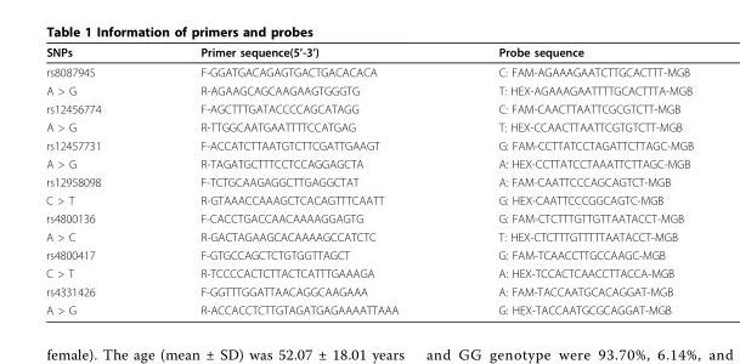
<table><thead><tr><td>SNPs</td><td>Primer sequence(5’-3’)</td><td>Probe sequence</td></tr></thead><tbody><tr><td>rs8087945</td><td>F-GGATGACAGAGTGACTGACACACA</td><td>C: FAM-AGAAAGAATCTTGCACTTT-MGB</td></tr><tr><td>A &gt; G</td><td>R-AGAAGCAGCAAGAAGTGGGTG</td><td>T: HEX-AGAAAGAATTTTGCACTTTA-MGB</td></tr><tr><td>rs12456774</td><td>F-AGCTTTGATACCCCAGCATAGG</td><td>C: FAM-CAACTTAATTCGCGTCTT-MGB</td></tr><tr><td>A &gt; G</td><td>R-TTGGCAATGAATTTTCCATGAG</td><td>T: HEX-CCAACTTAATTCGTGTCTT-MGB</td></tr><tr><td>rs12457731</td><td>F-ACCATCTTAATGTCTTCGATTGAAGT</td><td>G: FAM-CCTTATCCTAGATTCTTAGC-MGB</td></tr><tr><td>A &gt; G</td><td>R-TAGATGCTTTCCTCCAGGAGCTA</td><td>A: HEX-CCTTATCCTAAATTCTTAGC-MGB</td></tr><tr><td>rs12958098</td><td>F-TCTGCAAGAGGCTTGAGGCTAT</td><td>A: FAM-CAATTCCCAGCAGTCT-MGB</td></tr><tr><td>C &gt; T</td><td>R-GTAAACCAAAGCTCACAGTTTCAATT</td><td>G: HEX-CAATTCCCGGCAGTC-MGB</td></tr><tr><td>rs4800136</td><td>F-CACCTGACCAACAAAAGGAGTG</td><td>G: FAM-CTCTTTGTTGTTAATACCT-MGB</td></tr><tr><td>A &gt; C</td><td>R-GACTAGAAGCACAAAAGCCATCTC</td><td>T: HEX-CTCTTTGTTTTTAATACCT-MGB</td></tr><tr><td>rs4800417</td><td>F-GTGCCAGCTCTGTGGTTAGCT</td><td>G: FAM-TCAACCTTGCCAAGC-MGB</td></tr><tr><td>C &gt; T</td><td>R-TCCCCACTCTTACTCATTTGAAAGA</td><td>A: HEX-TCCACTCAACCTTACCA-MGB</td></tr><tr><td>rs4331426</td><td>F-GGTTTGGATTAACAGGCAAGAAA</td><td>A: FAM-TACCAATGCACAGGAT-MGB</td></tr><tr><td>A &gt; G</td><td>R-ACCACCTCTTGTAGATGAGAAAATTAAA</td><td>G: HEX-TACCAATGCGCAGGAT-MGB</td></tr></tbody></table>